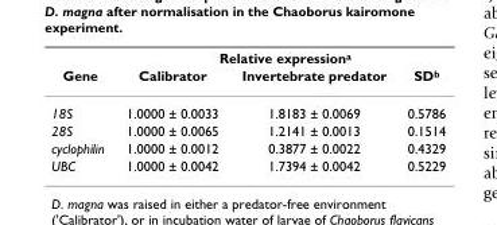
<table><thead><tr><td rowspan="2">Gene</td><td colspan="3">Relative expression<sup>a</sup></td></tr><tr><td>Calibrator</td><td>Invertebrate predator</td><td>SD<sup>b</sup></td></tr></thead><tbody><tr><td>18S</td><td>1.0000 ± 0.0033</td><td>1.8183 ± 0.0069</td><td>0.5786</td></tr><tr><td>28S</td><td>1.0000 ± 0.0065</td><td>1.2141 ± 0.0013</td><td>0.1514</td></tr><tr><td>cyclophilin</td><td>1.0000 ± 0.0012</td><td>0.3877 ± 0.0022</td><td>0.4329</td></tr><tr><td>UBC</td><td>1.0000 ± 0.0042</td><td>1.7394 ± 0.0042</td><td>0.5229</td></tr></tbody></table>